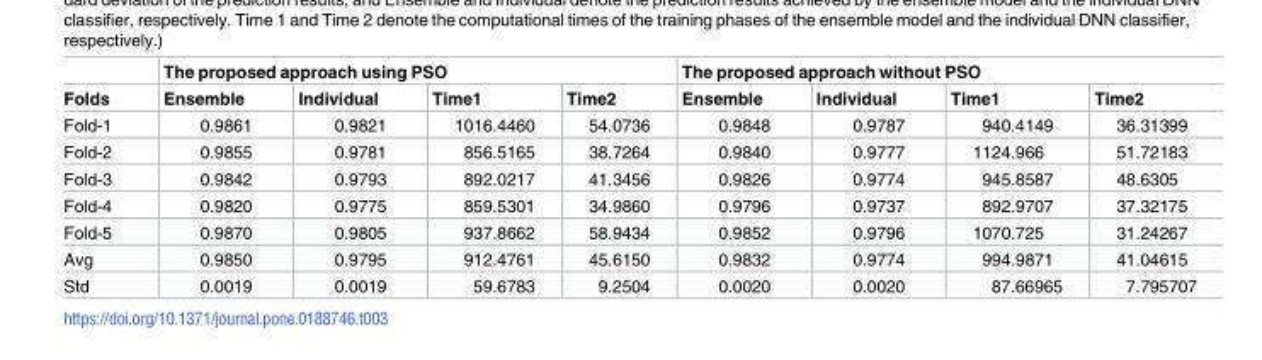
<table><thead><tr><td rowspan="2">Folds</td><td colspan="4">The proposed approach using PSO</td><td colspan="4">The proposed approach without PSO</td></tr><tr><td>Ensemble</td><td>Individual</td><td>Time1</td><td>Time2</td><td>Ensemble</td><td>Individual</td><td>Time1</td><td>Time2</td></tr></thead><tbody><tr><td>Fold-1</td><td>0.9861</td><td>0.9821</td><td>1016.4460</td><td>54.0736</td><td>0.9848</td><td>0.9787</td><td>940.4149</td><td>36.31399</td></tr><tr><td>Fold-2</td><td>0.9855</td><td>0.9781</td><td>856.5165</td><td>38.7264</td><td>0.9840</td><td>0.9777</td><td>1124.966</td><td>51.72183</td></tr><tr><td>Fold-3</td><td>0.9842</td><td>0.9793</td><td>892.0217</td><td>41.3456</td><td>0.9826</td><td>0.9774</td><td>945.8587</td><td>48.6305</td></tr><tr><td>Fold-4</td><td>0.9820</td><td>0.9775</td><td>859.5301</td><td>34.9860</td><td>0.9796</td><td>0.9737</td><td>892.9707</td><td>37.32175</td></tr><tr><td>Fold-5</td><td>0.9870</td><td>0.9805</td><td>937.8662</td><td>58.9434</td><td>0.9852</td><td>0.9796</td><td>1070.725</td><td>31.24267</td></tr><tr><td>Avg</td><td>0.9850</td><td>0.9795</td><td>912.4761</td><td>45.6150</td><td>0.9832</td><td>0.9774</td><td>994.9871</td><td>41.04615</td></tr><tr><td>Std</td><td>0.0019</td><td>0.0019</td><td>59.6783</td><td>9.2504</td><td>0.0020</td><td>0.0020</td><td>87.66965</td><td>7.795707</td></tr></tbody></table>